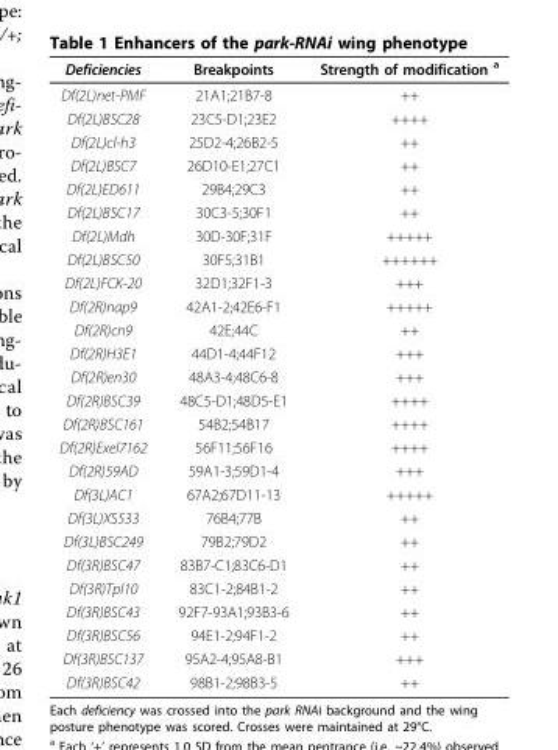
<table><thead><tr><td>Deficiencies</td><td>Breakpoints</td><td>Strength of modification <sup>a</sup></td></tr></thead><tbody><tr><td>Df(2L)net-PMF</td><td>21A1;21B7-8</td><td>++</td></tr><tr><td>Df(2L)BSC28</td><td>23C5-D1;23E2</td><td>++++</td></tr><tr><td>Df(2L)cl-h3</td><td>25D2-4;26B2-5</td><td>++</td></tr><tr><td>Df(2L)BSC7</td><td>26D10-E1;27C1</td><td>++</td></tr><tr><td>Df(2L)ED611</td><td>29B4;29C3</td><td>++</td></tr><tr><td>Df(2L)BSC17</td><td>30C3-5;30F1</td><td>++</td></tr><tr><td>Df(2L)Mdh</td><td>30D-30F;31F</td><td>+++++</td></tr><tr><td>Df(2L)BSC50</td><td>30F5;31B1</td><td>++++++</td></tr><tr><td>Df(2L)FCK-20</td><td>32D1;32F1-3</td><td>+++</td></tr><tr><td>Df(2R)nap9</td><td>42A1-2;42E6-F1</td><td>+++++</td></tr><tr><td>Df(2R)cn9</td><td>42E;44C</td><td>++</td></tr><tr><td>Df(2R)H3E1</td><td>44D1-4;44F12</td><td>+++</td></tr><tr><td>Df(2R)en30</td><td>48A3-4;48C6-8</td><td>+++</td></tr><tr><td>Df(2R)BSC39</td><td>48C5-D1;48D5-E1</td><td>++++</td></tr><tr><td>Df(2R)BSC161</td><td>54B2;54B17</td><td>++++</td></tr><tr><td>Df(2R)Exel7162</td><td>56F11;56F16</td><td>++++</td></tr><tr><td>Df(2R)59AD</td><td>59A1-3;59D1-4</td><td>+++</td></tr><tr><td>Df(3L)AC1</td><td>67A2;67D11-13</td><td>+++++</td></tr><tr><td>Df(3L)XS533</td><td>76B4;77B</td><td>++</td></tr><tr><td>Df(3L)BSC249</td><td>79B2;79D2</td><td>++</td></tr><tr><td>Df(3R)BSC47</td><td>83B7-C1;83C6-D1</td><td>++</td></tr><tr><td>Df(3R)Tpl10</td><td>83C1-2;84B1-2</td><td>++</td></tr><tr><td>Df(3R)BSC43</td><td>92F7-93A1;93B3-6</td><td>++</td></tr><tr><td>Df(3R)BSC56</td><td>94E1-2;94F1-2</td><td>++</td></tr><tr><td>Df(3R)BSC137</td><td>95A2-4;95A8-B1</td><td>+++</td></tr><tr><td>Df(3R)BSC42</td><td>98B1-2;98B3-5</td><td>++</td></tr></tbody></table>